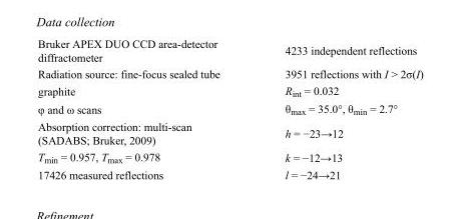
<table><tbody><tr><td>Bruker APEX DUO CCD area-detector diffractometer</td><td>4233 independent reflections</td></tr><tr><td>Radiation source: fine-focus sealed tube</td><td>3951 reflections with I &gt; 2σ(I)</td></tr><tr><td>graphite</td><td>R<sub>int</sub> = 0.032</td></tr><tr><td>φ and ω scans</td><td>θ<sub>max</sub> = 35.0°, θ<sub>min</sub> = 2.7°</td></tr><tr><td>Absorption correction: multi-scan (SADABS; Bruker, 2009)</td><td>h = −23→12</td></tr><tr><td>T<sub>min</sub> = 0.957, T<sub>max</sub> = 0.978</td><td>k = −12→13</td></tr><tr><td>17426 measured reflections</td><td>l = −24→21</td></tr></tbody></table>